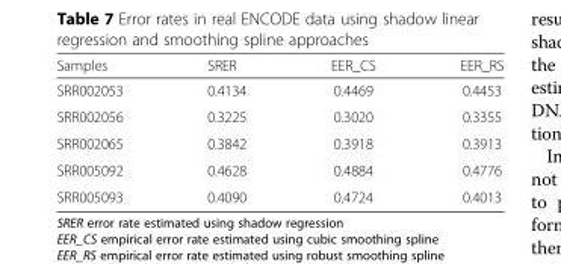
<table><thead><tr><td>Samples</td><td>SRER</td><td>EER_CS</td><td>EER_RS</td></tr></thead><tbody><tr><td>SRR002053</td><td>0.4134</td><td>0.4469</td><td>0.4453</td></tr><tr><td>SRR002056</td><td>0.3225</td><td>0.3020</td><td>0.3355</td></tr><tr><td>SRR002065</td><td>0.3842</td><td>0.3918</td><td>0.3913</td></tr><tr><td>SRR005092</td><td>0.4628</td><td>0.4884</td><td>0.4776</td></tr><tr><td>SRR005093</td><td>0.4090</td><td>0.4724</td><td>0.4013</td></tr></tbody></table>